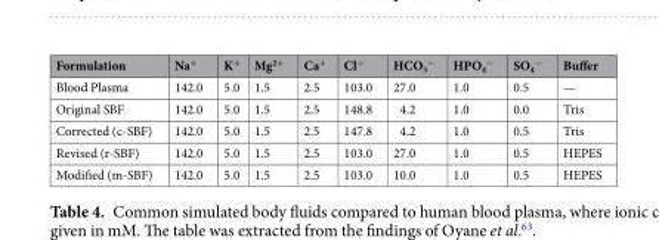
<table><thead><tr><td>Formulation</td><td>Na<sup>+</sup></td><td>K<sup>+</sup></td><td>Mg<sup>2+</sup></td><td>Ca<sup>+</sup></td><td>Cl<sup>−</sup></td><td>HCO<sub>3</sub> <sup>−</sup></td><td>HPO<sub>4</sub> <sup>−</sup></td><td>SO<sub>4</sub> <sup>−</sup></td><td>Buffer</td></tr></thead><tbody><tr><td>Blood Plasma</td><td>142.0</td><td>5.0</td><td>1.5</td><td>2.5</td><td>103.0</td><td>27.0</td><td>1.0</td><td>0.5</td><td>—</td></tr><tr><td>Original SBF</td><td>142.0</td><td>5.0</td><td>1.5</td><td>2.5</td><td>148.8</td><td>4.2</td><td>1.0</td><td>0.0</td><td>Tris</td></tr><tr><td>Corrected (c-SBF)</td><td>142.0</td><td>5.0</td><td>1.5</td><td>2.5</td><td>147.8</td><td>4.2</td><td>1.0</td><td>0.5</td><td>Tris</td></tr><tr><td>Revised (r-SBF)</td><td>142.0</td><td>5.0</td><td>1.5</td><td>2.5</td><td>103.0</td><td>27.0</td><td>1.0</td><td>0.5</td><td>HEPES</td></tr><tr><td>Modified (m-SBF)</td><td>142.0</td><td>5.0</td><td>1.5</td><td>2.5</td><td>103.0</td><td>10.0</td><td>1.0</td><td>0.5</td><td>HEPES</td></tr></tbody></table>